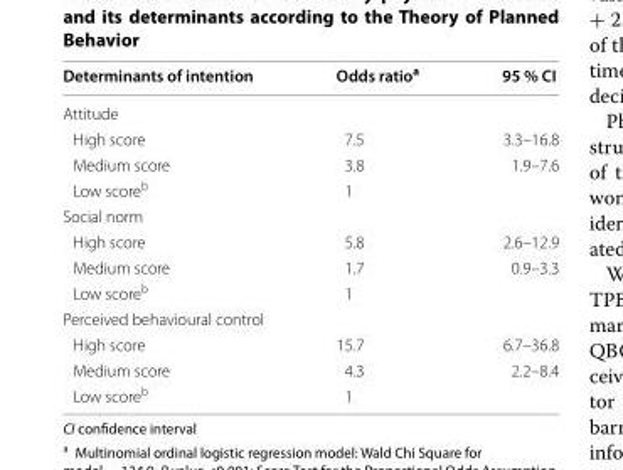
<table><thead><tr><td>Determinants of intention</td><td>Odds ratio<sup>a</sup></td><td>95 % CI</td></tr></thead><tbody><tr><td colspan="3">Attitude</td></tr><tr><td>High score</td><td>7.5</td><td>3.3–16.8</td></tr><tr><td>Medium score</td><td>3.8</td><td>1.9–7.6</td></tr><tr><td>Low score<sup>b</sup></td><td>1</td><td></td></tr><tr><td colspan="3">Social norm</td></tr><tr><td>High score</td><td>5.8</td><td>2.6–12.9</td></tr><tr><td>Medium score</td><td>1.7</td><td>0.9–3.3</td></tr><tr><td>Low score<sup>b</sup></td><td>1</td><td></td></tr><tr><td colspan="3">Perceived behavioural control</td></tr><tr><td>High score</td><td>15.7</td><td>6.7–36.8</td></tr><tr><td>Medium score</td><td>4.3</td><td>2.2–8.4</td></tr><tr><td>Low score<sup>b</sup></td><td>1</td><td></td></tr></tbody></table>